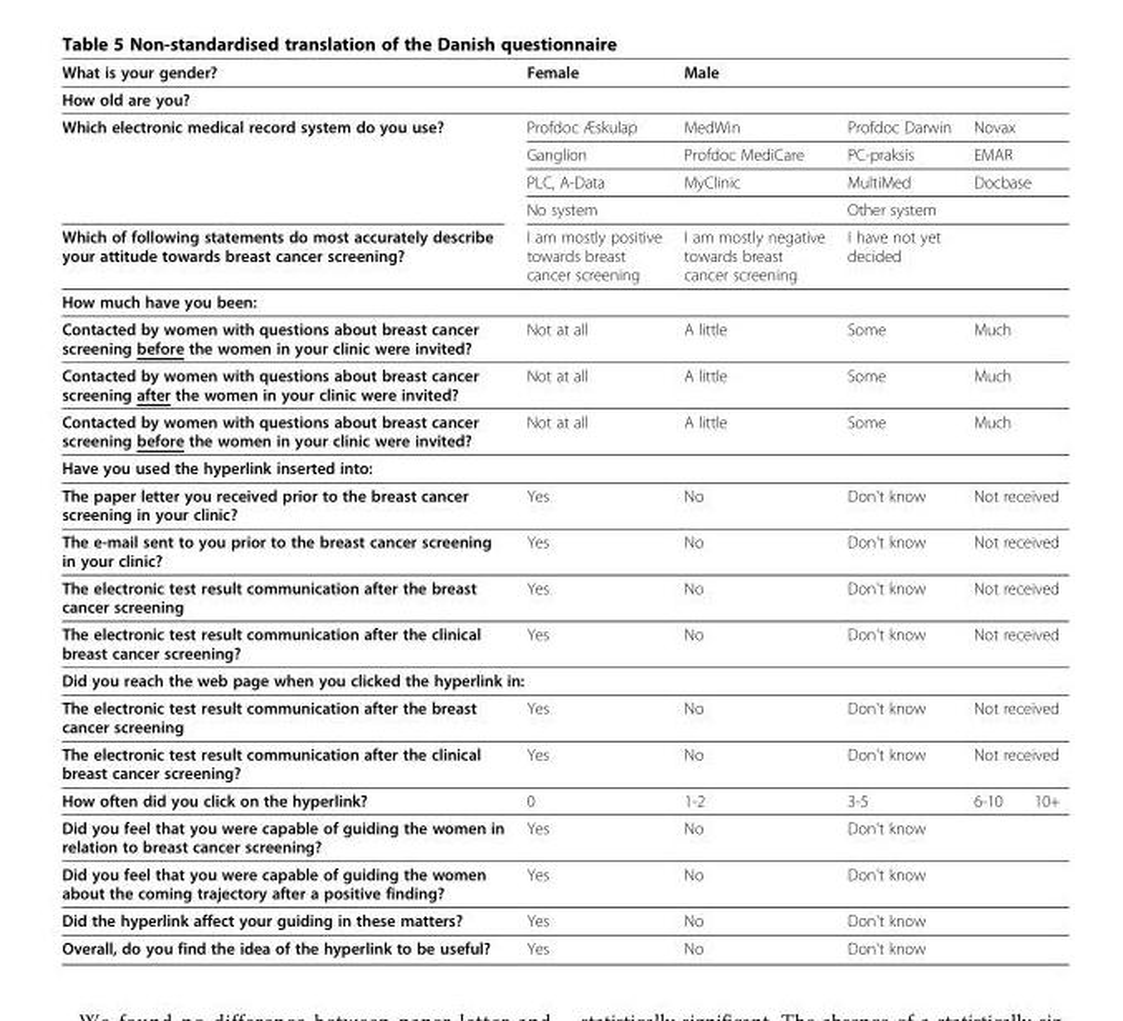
<table><thead><tr><td>What is your gender?</td><td>Female</td><td>Male</td><td></td><td></td><td></td></tr></thead><tbody><tr><td colspan="6">How old are you?</td></tr><tr><td rowspan="4">Which electronic medical record system do you use?</td><td>Profdoc Æskulap</td><td>MedWin</td><td>Profdoc Darwin</td><td colspan="2">Novax</td></tr><tr><td>Ganglion</td><td>Profdoc MediCare</td><td>PC-praksis</td><td colspan="2">EMAR</td></tr><tr><td>PLC, A-Data</td><td>MyClinic</td><td>MultiMed</td><td colspan="2">Docbase</td></tr><tr><td colspan="2">No system</td><td colspan="3">Other system</td></tr><tr><td>Which of following statements do most accurately describe your attitude towards breast cancer screening?</td><td>I am mostly positive towards breast cancer screening</td><td>I am mostly negative towards breast cancer screening</td><td colspan="3">I have not yet decided</td></tr><tr><td colspan="6">How much have you been:</td></tr><tr><td>Contacted by women with questions about breast cancer screening before the women in your clinic were invited?</td><td>Not at all</td><td>A little</td><td>Some</td><td colspan="2">Much</td></tr><tr><td>Contacted by women with questions about breast cancer screening after the women in your clinic were invited?</td><td>Not at all</td><td>A little</td><td>Some</td><td colspan="2">Much</td></tr><tr><td>Contacted by women with questions about breast cancer screening before the women in your clinic were invited?</td><td>Not at all</td><td>A little</td><td>Some</td><td colspan="2">Much</td></tr><tr><td colspan="6">Have you used the hyperlink inserted into:</td></tr><tr><td>The paper letter you received prior to the breast cancer screening in your clinic?</td><td>Yes</td><td>No</td><td>Don&#x27;t know</td><td colspan="2">Not received</td></tr><tr><td>The e-mail sent to you prior to the breast cancer screening in your clinic?</td><td>Yes</td><td>No</td><td>Don&#x27;t know</td><td colspan="2">Not received</td></tr><tr><td>The electronic test result communication after the breast cancer screening</td><td>Yes</td><td>No</td><td>Don&#x27;t know</td><td colspan="2">Not received</td></tr><tr><td>The electronic test result communication after the clinical breast cancer screening?</td><td>Yes</td><td>No</td><td>Don&#x27;t know</td><td colspan="2">Not received</td></tr><tr><td colspan="6">Did you reach the web page when you clicked the hyperlink in:</td></tr><tr><td>The electronic test result communication after the breast cancer screening</td><td>Yes</td><td>No</td><td>Don&#x27;t know</td><td colspan="2">Not received</td></tr><tr><td>The electronic test result communication after the clinical breast cancer screening?</td><td>Yes</td><td>No</td><td>Don&#x27;t know</td><td colspan="2">Not received</td></tr><tr><td>How often did you click on the hyperlink?</td><td>0</td><td>1-2</td><td>3-5</td><td>6-10</td><td>10+</td></tr><tr><td>Did you feel that you were capable of guiding the women in relation to breast cancer screening?</td><td>Yes</td><td>No</td><td colspan="3">Don&#x27;t know</td></tr><tr><td>Did you feel that you were capable of guiding the women about the coming trajectory after a positive finding?</td><td>Yes</td><td>No</td><td colspan="3">Don&#x27;t know</td></tr><tr><td>Did the hyperlink affect your guiding in these matters?</td><td>Yes</td><td>No</td><td colspan="3">Don&#x27;t know</td></tr><tr><td>Overall, do you find the idea of the hyperlink to be useful?</td><td>Yes</td><td>No</td><td colspan="3">Don&#x27;t know</td></tr></tbody></table>